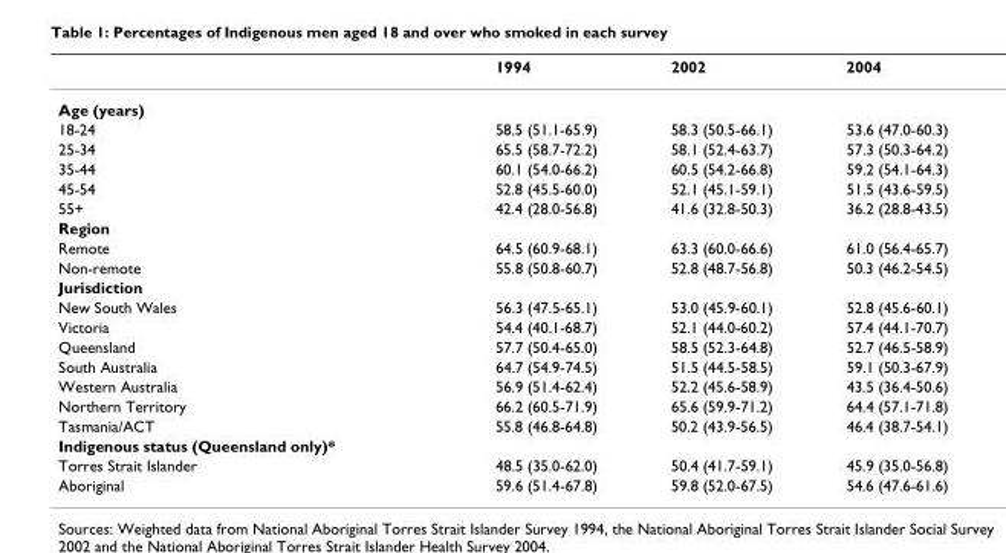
<table><thead><tr><td></td><td>1994</td><td>2002</td><td>2004</td></tr></thead><tbody><tr><td colspan="4">Age (years)</td></tr><tr><td>18-24</td><td>58.5 (51.1-65.9)</td><td>58.3 (50.5-66.1)</td><td>53.6 (47.0-60.3)</td></tr><tr><td>25-34</td><td>65.5 (58.7-72.2)</td><td>58.1 (52.4-63.7)</td><td>57.3 (50.3-64.2)</td></tr><tr><td>35-44</td><td>60.1 (54.0-66.2)</td><td>60.5 (54.2-66.8)</td><td>59.2 (54.1-64.3)</td></tr><tr><td>45-54</td><td>52.8 (45.5-60.0)</td><td>52.1 (45.1-59.1)</td><td>51.5 (43.6-59.5)</td></tr><tr><td>55+</td><td>42.4 (28.0-56.8)</td><td>41.6 (32.8-50.3)</td><td>36.2 (28.8-43.5)</td></tr><tr><td colspan="4">Region</td></tr><tr><td>Remote</td><td>64.5 (60.9-68.1)</td><td>63.3 (60.0-66.6)</td><td>61.0 (56.4-65.7)</td></tr><tr><td>Non-remote</td><td>55.8 (50.8-60.7)</td><td>52.8 (48.7-56.8)</td><td>50.3 (46.2-54.5)</td></tr><tr><td colspan="4">Jurisdiction</td></tr><tr><td>New South Wales</td><td>56.3 (47.5-65.1)</td><td>53.0 (45.9-60.1)</td><td>52.8 (45.6-60.1)</td></tr><tr><td>Victoria</td><td>54.4 (40.1-68.7)</td><td>52.1 (44.0-60.2)</td><td>57.4 (44.1-70.7)</td></tr><tr><td>Queensland</td><td>57.7 (50.4-65.0)</td><td>58.5 (52.3-64.8)</td><td>52.7 (46.5-58.9)</td></tr><tr><td>South Australia</td><td>64.7 (54.9-74.5)</td><td>51.5 (44.5-58.5)</td><td>59.1 (50.3-67.9)</td></tr><tr><td>Western Australia</td><td>56.9 (51.4-62.4)</td><td>52.2 (45.6-58.9)</td><td>43.5 (36.4-50.6)</td></tr><tr><td>Northern Territory</td><td>66.2 (60.5-71.9)</td><td>65.6 (59.9-71.2)</td><td>64.4 (57.1-71.8)</td></tr><tr><td>Tasmania/ACT</td><td>55.8 (46.8-64.8)</td><td>50.2 (43.9-56.5)</td><td>46.4 (38.7-54.1)</td></tr><tr><td colspan="4">Indigenous status (Queensland only)*</td></tr><tr><td>Torres Strait Islander</td><td>48.5 (35.0-62.0)</td><td>50.4 (41.7-59.1)</td><td>45.9 (35.0-56.8)</td></tr><tr><td>Aboriginal</td><td>59.6 (51.4-67.8)</td><td>59.8 (52.0-67.5)</td><td>54.6 (47.6-61.6)</td></tr></tbody></table>